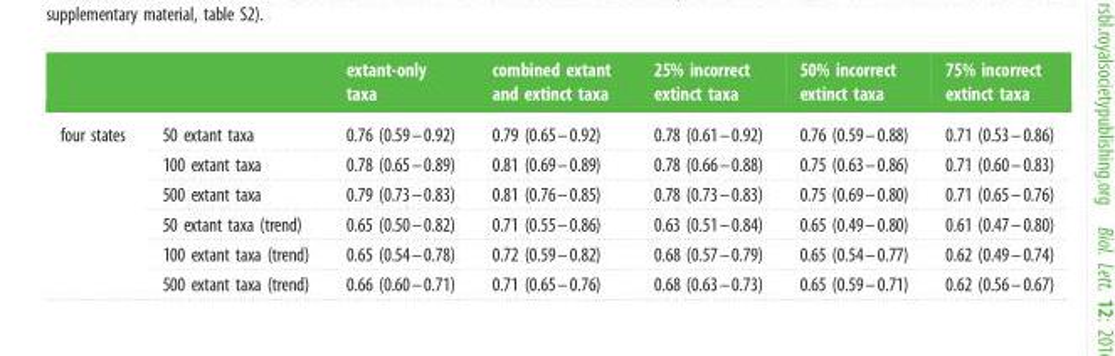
<table><thead><tr><td></td><td></td><td>extant-only taxa</td><td>combined extant and extinct taxa</td><td>25% incorrect extinct taxa</td><td>50% incorrect extinct taxa</td><td>75% incorrect extinct taxa</td></tr></thead><tbody><tr><td rowspan="6">four states</td><td>50 extant taxa</td><td>0.76 (0.59–0.92)</td><td>0.79 (0.65–0.92)</td><td>0.78 (0.61–0.92)</td><td>0.76 (0.59–0.88)</td><td>0.71 (0.53–0.86)</td></tr><tr><td>100 extant taxa</td><td>0.78 (0.65–0.89)</td><td>0.81 (0.69–0.89)</td><td>0.78 (0.66–0.88)</td><td>0.75 (0.63–0.86)</td><td>0.71 (0.60–0.83)</td></tr><tr><td>500 extant taxa</td><td>0.79 (0.73–0.83)</td><td>0.81 (0.76–0.85)</td><td>0.78 (0.73–0.83)</td><td>0.75 (0.69–0.80)</td><td>0.71 (0.65–0.76)</td></tr><tr><td>50 extant taxa (trend)</td><td>0.65 (0.50–0.82)</td><td>0.71 (0.55–0.86)</td><td>0.63 (0.51–0.84)</td><td>0.65 (0.49–0.80)</td><td>0.61 (0.47–0.80)</td></tr><tr><td>100 extant taxa (trend)</td><td>0.65 (0.54–0.78)</td><td>0.72 (0.59–0.82)</td><td>0.68 (0.57–0.79)</td><td>0.65 (0.54–0.77)</td><td>0.62 (0.49–0.74)</td></tr><tr><td>500 extant taxa (trend)</td><td>0.66 (0.60–0.71)</td><td>0.71 (0.65–0.76)</td><td>0.68 (0.63–0.73)</td><td>0.65 (0.59–0.71)</td><td>0.62 (0.56–0.67)</td></tr></tbody></table>